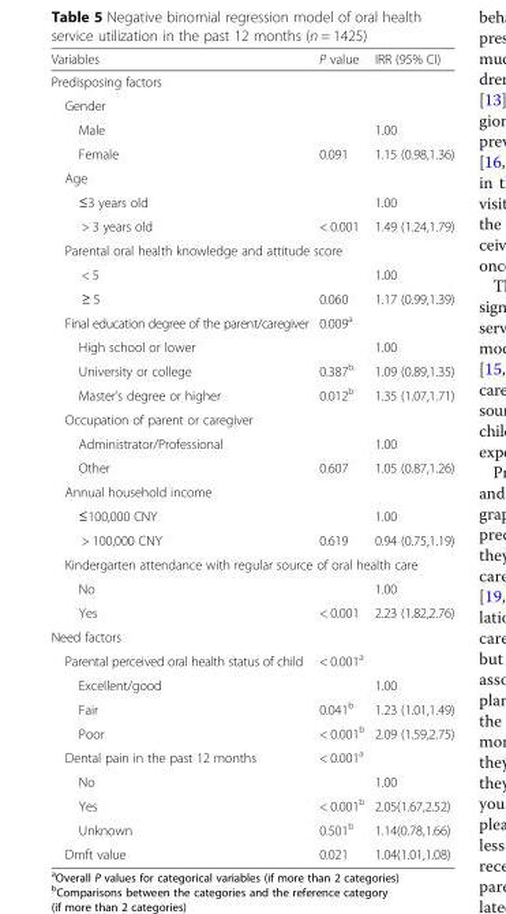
<table><thead><tr><td>Variables</td><td>P value</td><td>IRR (95% CI)</td></tr></thead><tbody><tr><td colspan="3">Predisposing factors</td></tr><tr><td colspan="3">Gender</td></tr><tr><td>Male</td><td></td><td>1.00</td></tr><tr><td>Female</td><td>0.091</td><td>1.15 (0.98,1.36)</td></tr><tr><td colspan="3">Age</td></tr><tr><td>≤3 years old</td><td></td><td>1.00</td></tr><tr><td>&gt; 3 years old</td><td>&lt; 0.001</td><td>1.49 (1.24,1.79)</td></tr><tr><td colspan="3">Parental oral health knowledge and attitude score</td></tr><tr><td>&lt; 5</td><td></td><td>1.00</td></tr><tr><td>≥ 5</td><td>0.060</td><td>1.17 (0.99,1.39)</td></tr><tr><td>Final education degree of the parent/caregiver</td><td>0.009<sup>a</sup></td><td></td></tr><tr><td>High school or lower</td><td></td><td>1.00</td></tr><tr><td>University or college</td><td>0.387<sup>b</sup></td><td>1.09 (0.89,1.35)</td></tr><tr><td>Master’s degree or higher</td><td>0.012<sup>b</sup></td><td>1.35 (1.07,1.71)</td></tr><tr><td colspan="3">Occupation of parent or caregiver</td></tr><tr><td>Administrator/Professional</td><td></td><td>1.00</td></tr><tr><td>Other</td><td>0.607</td><td>1.05 (0.87,1.26)</td></tr><tr><td colspan="3">Annual household income</td></tr><tr><td>≤100,000 CNY</td><td></td><td>1.00</td></tr><tr><td>&gt; 100,000 CNY</td><td>0.619</td><td>0.94 (0.75,1.19)</td></tr><tr><td colspan="3">Kindergarten attendance with regular source of oral health care</td></tr><tr><td>No</td><td></td><td>1.00</td></tr><tr><td>Yes</td><td>&lt; 0.001</td><td>2.23 (1.82,2.76)</td></tr><tr><td colspan="3">Need factors</td></tr><tr><td>Parental perceived oral health status of child</td><td>&lt; 0.001<sup>a</sup></td><td></td></tr><tr><td>Excellent/good</td><td></td><td>1.00</td></tr><tr><td>Fair</td><td>0.041<sup>b</sup></td><td>1.23 (1.01,1.49)</td></tr><tr><td>Poor</td><td>&lt; 0.001<sup>b</sup></td><td>2.09 (1.59,2.75)</td></tr><tr><td>Dental pain in the past 12 months</td><td>&lt; 0.001<sup>a</sup></td><td></td></tr><tr><td>No</td><td></td><td>1.00</td></tr><tr><td>Yes</td><td>&lt; 0.001<sup>b</sup></td><td>2.05(1.67,2.52)</td></tr><tr><td>Unknown</td><td>0.501<sup>b</sup></td><td>1.14(0.78,1.66)</td></tr><tr><td>Dmft value</td><td>0.021</td><td>1.04(1.01,1.08)</td></tr></tbody></table>